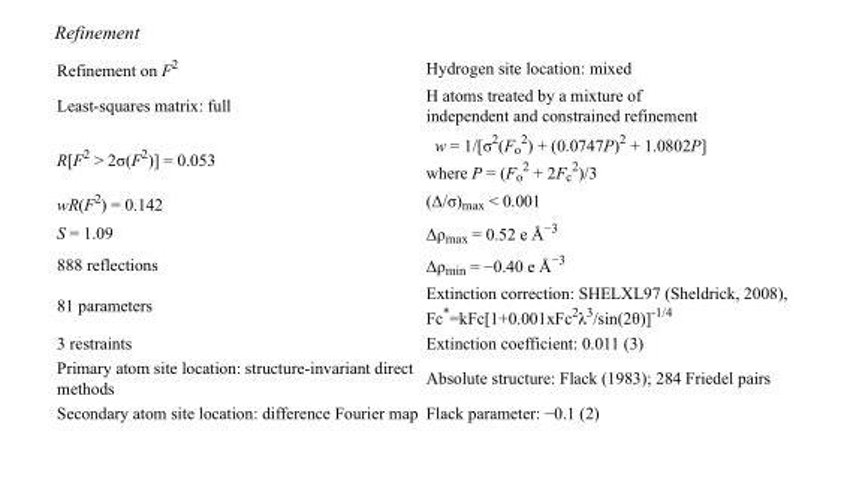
<table><tbody><tr><td>Refinement on F<sup>2</sup></td><td>Hydrogen site location: mixed</td></tr><tr><td>Least-squares matrix: full</td><td>H atoms treated by a mixture of independent and constrained refinement</td></tr><tr><td>R[F<sup>2</sup> &gt; 2σ(F<sup>2</sup>)] = 0.053</td><td>w = 1/[σ<sup>2</sup>(F<sub>o</sub> <sup>2</sup>) + (0.0747P)<sup>2</sup> + 1.0802P] where P = (F<sub>o</sub> <sup>2</sup> + 2F<sub>c</sub> <sup>2</sup>)/3</td></tr><tr><td>wR(F<sup>2</sup>) = 0.142</td><td>(Δ/σ)<sub>max</sub> &lt; 0.001</td></tr><tr><td>S = 1.09</td><td>Δρ<sub>max</sub> = 0.52 e Å<sup>−3</sup></td></tr><tr><td>888 reflections</td><td>Δρ<sub>min</sub> = −0.40 e Å<sup>−3</sup></td></tr><tr><td>81 parameters</td><td>Extinction correction: SHELXL97 (Sheldrick, 2008), Fc*=kFc[1+0.001xFc<sup>2</sup>λ<sup>3</sup>/sin(2θ)]<sup>-1/4</sup></td></tr><tr><td>3 restraints</td><td>Extinction coefficient: 0.011 (3)</td></tr><tr><td>Primary atom site location: structure-invariant direct methods</td><td>Absolute structure: Flack (1983); 284 Friedel pairs</td></tr><tr><td>Secondary atom site location: difference Fourier map</td><td>Flack parameter: −0.1 (2)</td></tr></tbody></table>